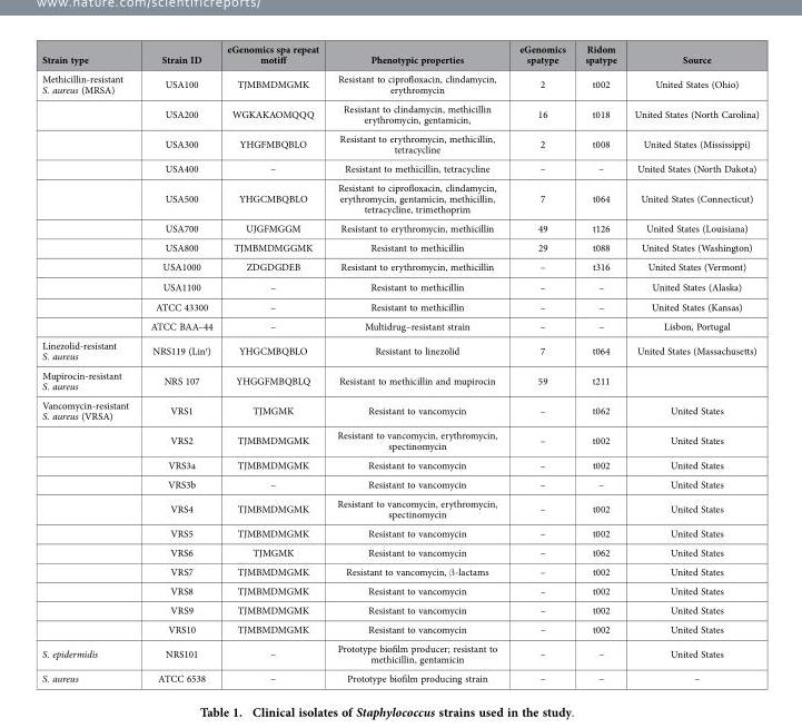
<table><thead><tr><td>Strain type</td><td>Strain ID</td><td>eGenomics spa repeat motiff</td><td>Phenotypic properties</td><td>eGenomics spatype</td><td>Ridom spatype</td><td>Source</td></tr></thead><tbody><tr><td rowspan="11">Methicillin-resistant S. aureus (MRSA)</td><td>USA100</td><td>TJMBMDMGMK</td><td>Resistant to ciprofloxacin, clindamycin, erythromycin</td><td>2</td><td>t002</td><td>United States (Ohio)</td></tr><tr><td>USA200</td><td>WGKAKAOMQQQ</td><td>Resistant to clindamycin, methicillin erythromycin, gentamicin,</td><td>16</td><td>t018</td><td>United States (North Carolina)</td></tr><tr><td>USA300</td><td>YHGFMBQBLO</td><td>Resistant to erythromycin, methicillin, tetracycline</td><td>2</td><td>t008</td><td>United States (Mississippi)</td></tr><tr><td>USA400</td><td>–</td><td>Resistant to methicillin, tetracycline</td><td>–</td><td>–</td><td>United States (North Dakota)</td></tr><tr><td>USA500</td><td>YHGCMBQBLO</td><td>Resistant to ciprofloxacin, clindamycin, erythromycin, gentamicin, methicillin, tetracycline, trimethoprim</td><td>7</td><td>t064</td><td>United States (Connecticut)</td></tr><tr><td>USA700</td><td>UJGFMGGM</td><td>Resistant to erythromycin, methicillin</td><td>49</td><td>t126</td><td>United States (Louisiana)</td></tr><tr><td>USA800</td><td>TJMBMDMGGMK</td><td>Resistant to methicillin</td><td>29</td><td>t088</td><td>United States (Washington)</td></tr><tr><td>USA1000</td><td>ZDGDGDEB</td><td>Resistant to erythromycin, methicillin</td><td>–</td><td>t316</td><td>United States (Vermont)</td></tr><tr><td>USA1100</td><td>–</td><td>Resistant to methicillin</td><td>–</td><td>–</td><td>United States (Alaska)</td></tr><tr><td>ATCC 43300</td><td>–</td><td>Resistant to methicillin</td><td>–</td><td>–</td><td>United States (Kansas)</td></tr><tr><td>ATCC BAA–44</td><td>–</td><td>Multidrug–resistant strain</td><td>–</td><td>–</td><td>Lisbon, Portugal</td></tr><tr><td>Linezolid-resistant S. aureus</td><td>NRS119 (Lin<sup>r</sup>)</td><td>YHGCMBQBLO</td><td>Resistant to linezolid</td><td>7</td><td>t064</td><td>United States (Massachusetts)</td></tr><tr><td>Mupirocin-resistant S. aureus</td><td>NRS 107</td><td>YHGGFMBQBLQ</td><td>Resistant to methicillin and mupirocin</td><td>59</td><td>t211</td><td></td></tr><tr><td rowspan="11">Vancomycin-resistant S. aureus (VRSA)</td><td>VRS1</td><td>TJMGMK</td><td>Resistant to vancomycin</td><td>–</td><td>t062</td><td>United States</td></tr><tr><td>VRS2</td><td>TJMBMDMGMK</td><td>Resistant to vancomycin, erythromycin, spectinomycin</td><td>–</td><td>t002</td><td>United States</td></tr><tr><td>VRS3a</td><td>TJMBMDMGMK</td><td>Resistant to vancomycin</td><td>–</td><td>t002</td><td>United States</td></tr><tr><td>VRS3b</td><td>–</td><td>Resistant to vancomycin</td><td>–</td><td>–</td><td>United States</td></tr><tr><td>VRS4</td><td>TJMBMDMGMK</td><td>Resistant to vancomycin, erythromycin, spectinomycin</td><td>–</td><td>t002</td><td>United States</td></tr><tr><td>VRS5</td><td>TJMBMDMGMK</td><td>Resistant to vancomycin</td><td>–</td><td>t002</td><td>United States</td></tr><tr><td>VRS6</td><td>TJMGMK</td><td>Resistant to vancomycin</td><td>–</td><td>t062</td><td>United States</td></tr><tr><td>VRS7</td><td>TJMBMDMGMK</td><td>Resistant to vancomycin, β -lactams</td><td>–</td><td>t002</td><td>United States</td></tr><tr><td>VRS8</td><td>TJMBMDMGMK</td><td>Resistant to vancomycin</td><td>–</td><td>t002</td><td>United States</td></tr><tr><td>VRS9</td><td>TJMBMDMGMK</td><td>Resistant to vancomycin</td><td>–</td><td>t002</td><td>United States</td></tr><tr><td>VRS10</td><td>TJMBMDMGMK</td><td>Resistant to vancomycin</td><td>–</td><td>t002</td><td>United States</td></tr><tr><td>S. epidermidis</td><td>NRS101</td><td>–</td><td>Prototype biofilm producer; resistant to methicillin, gentamicin</td><td>–</td><td>–</td><td>United States</td></tr><tr><td>S. aureus</td><td>ATCC 6538</td><td>–</td><td>Prototype biofilm producing strain</td><td>–</td><td>–</td><td>–</td></tr></tbody></table>